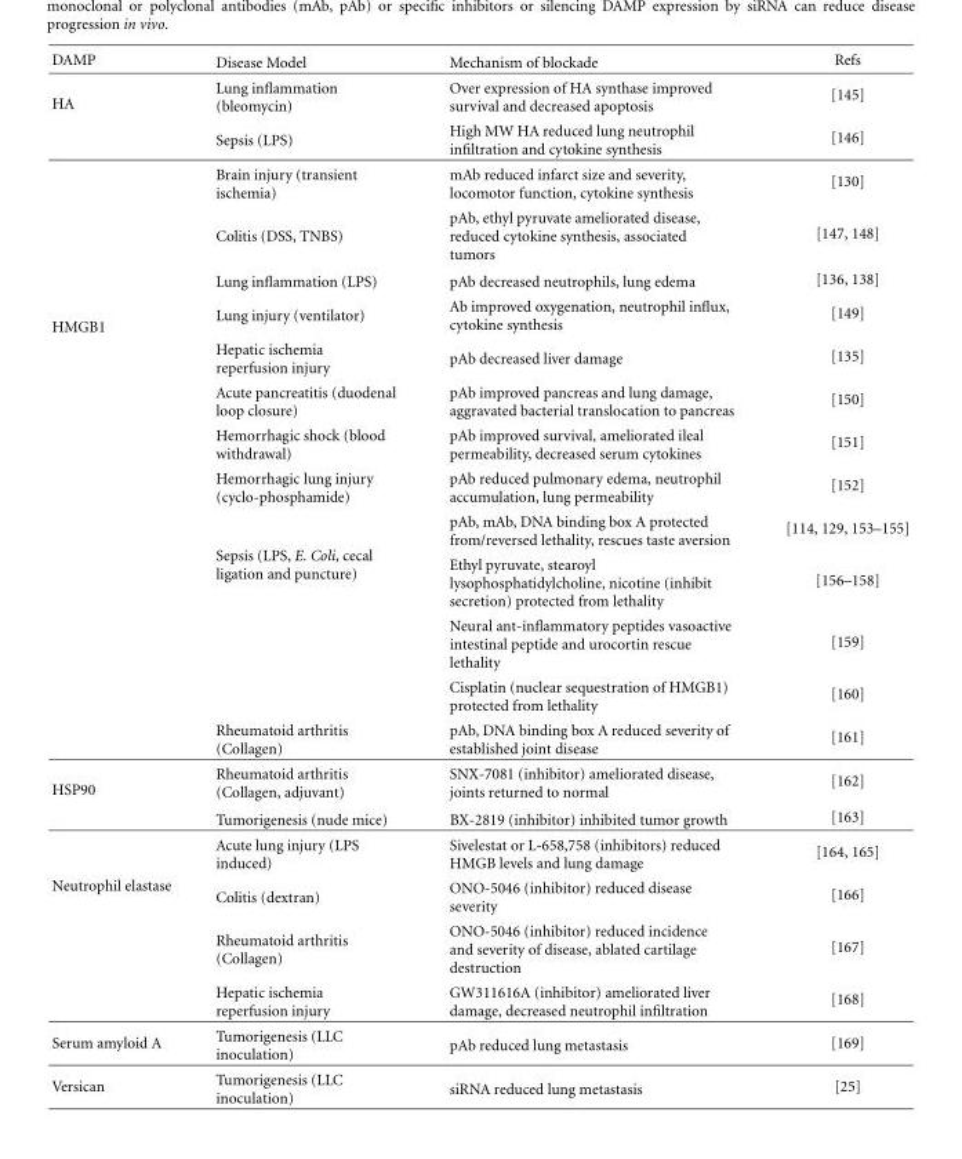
<table><thead><tr><td>DAMP</td><td>Disease Model</td><td>Mechanism of blockade</td><td>Refs</td></tr></thead><tbody><tr><td rowspan="2">HA</td><td>Lung inflammation (bleomycin)</td><td>Over expression of HA synthase improved survival and decreased apoptosis</td><td>[145]</td></tr><tr><td>Sepsis (LPS)</td><td>High MW HA reduced lung neutrophil infiltration and cytokine synthesis</td><td>[146]</td></tr><tr><td rowspan="13">HMGB1</td><td>Brain injury (transient ischemia)</td><td>mAb reduced infarct size and severity, locomotor function, cytokine synthesis</td><td>[130]</td></tr><tr><td>Colitis (DSS, TNBS)</td><td>pAb, ethyl pyruvate ameliorated disease, reduced cytokine synthesis, associated tumors</td><td>[147, 148]</td></tr><tr><td>Lung inflammation (LPS)</td><td>pAb decreased neutrophils, lung edema</td><td>[136, 138]</td></tr><tr><td>Lung injury (ventilator)</td><td>Ab improved oxygenation, neutrophil influx, cytokine synthesis</td><td>[149]</td></tr><tr><td>Hepatic ischemia reperfusion injury</td><td>pAb decreased liver damage</td><td>[135]</td></tr><tr><td>Acute pancreatitis (duodenal loop closure)</td><td>pAb improved pancreas and lung damage, aggravated bacterial translocation to pancreas</td><td>[150]</td></tr><tr><td>Hemorrhagic shock (blood withdrawal)</td><td>pAb improved survival, ameliorated ileal permeability, decreased serum cytokines</td><td>[151]</td></tr><tr><td>Hemorrhagic lung injury (cyclo-phosphamide)</td><td>pAb reduced pulmonary edema, neutrophil accumulation, lung permeability</td><td>[152]</td></tr><tr><td rowspan="4">Sepsis (LPS, E. Coli, cecal ligation and puncture)</td><td>pAb, mAb, DNA binding box A protected from/reversed lethality, rescues taste aversion</td><td>[114, 129, 153–155]</td></tr><tr><td>Ethyl pyruvate, stearoyl lysophosphatidylcholine, nicotine (inhibit secretion) protected from lethality</td><td>[156–158]</td></tr><tr><td>Neural ant-inflammatory peptides vasoactive intestinal peptide and urocortin rescue lethality</td><td>[159]</td></tr><tr><td>Cisplatin (nuclear sequestration of HMGB1) protected from lethality</td><td>[160]</td></tr><tr><td>Rheumatoid arthritis (Collagen)</td><td>pAb, DNA binding box A reduced severity of established joint disease</td><td>[161]</td></tr><tr><td rowspan="2">HSP90</td><td>Rheumatoid arthritis (Collagen, adjuvant)</td><td>SNX-7081 (inhibitor) ameliorated disease, joints returned to normal</td><td>[162]</td></tr><tr><td>Tumorigenesis (nude mice)</td><td>BX-2819 (inhibitor) inhibited tumor growth</td><td>[163]</td></tr><tr><td rowspan="4">Neutrophil elastase</td><td>Acute lung injury (LPS induced)</td><td>Sivelestat or L-658,758 (inhibitors) reduced HMGB levels and lung damage</td><td>[164, 165]</td></tr><tr><td>Colitis (dextran)</td><td>ONO-5046 (inhibitor) reduced disease severity</td><td>[166]</td></tr><tr><td>Rheumatoid arthritis (Collagen)</td><td>ONO-5046 (inhibitor) reduced incidence and severity of disease, ablated cartilage destruction</td><td>[167]</td></tr><tr><td>Hepatic ischemia reperfusion injury</td><td>GW311616A (inhibitor) ameliorated liver damage, decreased neutrophil infiltration</td><td>[168]</td></tr><tr><td>Serum amyloid A</td><td>Tumorigenesis (LLC inoculation)</td><td>pAb reduced lung metastasis</td><td>[169]</td></tr><tr><td>Versican</td><td>Tumorigenesis (LLC inoculation)</td><td>siRNA reduced lung metastasis</td><td>[25]</td></tr></tbody></table>